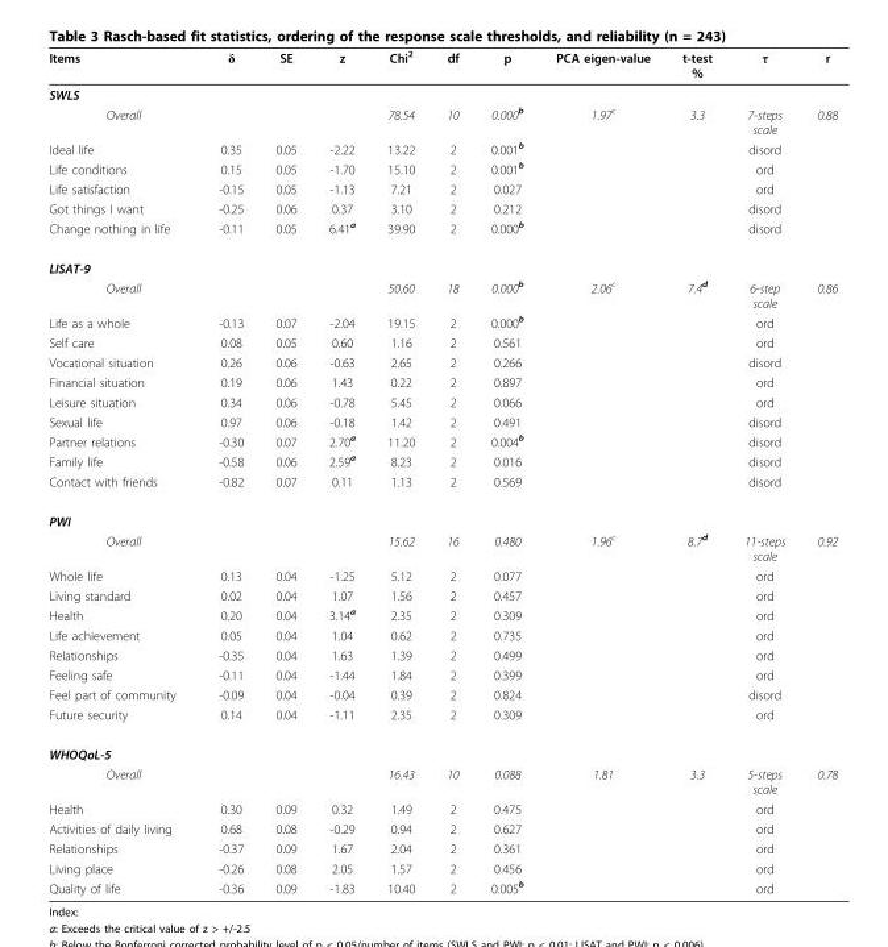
<table><thead><tr><td>Items</td><td>δ</td><td>SE</td><td>z</td><td>Chi<sup>2</sup></td><td>df</td><td>p</td><td>PCA eigen-value</td><td>t-test %</td><td>τ</td><td>r</td></tr></thead><tbody><tr><td colspan="11">SWLS</td></tr><tr><td>Overall</td><td></td><td></td><td></td><td>78.54</td><td>10</td><td>0.000<sup>b</sup></td><td>1.97<sup>c</sup></td><td>3.3</td><td>7-steps scale</td><td>0.88</td></tr><tr><td>Ideal life</td><td>0.35</td><td>0.05</td><td>-2.22</td><td>13.22</td><td>2</td><td>0.001<sup>b</sup></td><td></td><td></td><td>disord</td><td></td></tr><tr><td>Life conditions</td><td>0.15</td><td>0.05</td><td>-1.70</td><td>15.10</td><td>2</td><td>0.001<sup>b</sup></td><td></td><td></td><td>ord</td><td></td></tr><tr><td>Life satisfaction</td><td>-0.15</td><td>0.05</td><td>-1.13</td><td>7.21</td><td>2</td><td>0.027</td><td></td><td></td><td>ord</td><td></td></tr><tr><td>Got things I want</td><td>-0.25</td><td>0.06</td><td>0.37</td><td>3.10</td><td>2</td><td>0.212</td><td></td><td></td><td>disord</td><td></td></tr><tr><td>Change nothing in life</td><td>-0.11</td><td>0.05</td><td>6.41<sup>a</sup></td><td>39.90</td><td>2</td><td>0.000<sup>b</sup></td><td></td><td></td><td>disord</td><td></td></tr><tr><td colspan="11">LISAT-9</td></tr><tr><td>Overall</td><td></td><td></td><td></td><td>50.60</td><td>18</td><td>0.000<sup>b</sup></td><td>2.06<sup>c</sup></td><td>7.4<sup>d</sup></td><td>6-step scale</td><td>0.86</td></tr><tr><td>Life as a whole</td><td>-0.13</td><td>0.07</td><td>-2.04</td><td>19.15</td><td>2</td><td>0.000<sup>b</sup></td><td></td><td></td><td>ord</td><td></td></tr><tr><td>Self care</td><td>0.08</td><td>0.05</td><td>0.60</td><td>1.16</td><td>2</td><td>0.561</td><td></td><td></td><td>ord</td><td></td></tr><tr><td>Vocational situation</td><td>0.26</td><td>0.06</td><td>-0.63</td><td>2.65</td><td>2</td><td>0.266</td><td></td><td></td><td>disord</td><td></td></tr><tr><td>Financial situation</td><td>0.19</td><td>0.06</td><td>1.43</td><td>0.22</td><td>2</td><td>0.897</td><td></td><td></td><td>ord</td><td></td></tr><tr><td>Leisure situation</td><td>0.34</td><td>0.06</td><td>-0.78</td><td>5.45</td><td>2</td><td>0.066</td><td></td><td></td><td>ord</td><td></td></tr><tr><td>Sexual life</td><td>0.97</td><td>0.06</td><td>-0.18</td><td>1.42</td><td>2</td><td>0.491</td><td></td><td></td><td>disord</td><td></td></tr><tr><td>Partner relations</td><td>-0.30</td><td>0.07</td><td>2.70<sup>a</sup></td><td>11.20</td><td>2</td><td>0.004<sup>b</sup></td><td></td><td></td><td>disord</td><td></td></tr><tr><td>Family life</td><td>-0.58</td><td>0.06</td><td>2.59<sup>a</sup></td><td>8.23</td><td>2</td><td>0.016</td><td></td><td></td><td>disord</td><td></td></tr><tr><td>Contact with friends</td><td>-0.82</td><td>0.07</td><td>0.11</td><td>1.13</td><td>2</td><td>0.569</td><td></td><td></td><td>disord</td><td></td></tr><tr><td colspan="11">PWI</td></tr><tr><td>Overall</td><td></td><td></td><td></td><td>15.62</td><td>16</td><td>0.480</td><td>1.96<sup>c</sup></td><td>8.7<sup>d</sup></td><td>11-steps scale</td><td>0.92</td></tr><tr><td>Whole life</td><td>0.13</td><td>0.04</td><td>-1.25</td><td>5.12</td><td>2</td><td>0.077</td><td></td><td></td><td>ord</td><td></td></tr><tr><td>Living standard</td><td>0.02</td><td>0.04</td><td>1.07</td><td>1.56</td><td>2</td><td>0.457</td><td></td><td></td><td>ord</td><td></td></tr><tr><td>Health</td><td>0.20</td><td>0.04</td><td>3.14<sup>a</sup></td><td>2.35</td><td>2</td><td>0.309</td><td></td><td></td><td>ord</td><td></td></tr><tr><td>Life achievement</td><td>0.05</td><td>0.04</td><td>1.04</td><td>0.62</td><td>2</td><td>0.735</td><td></td><td></td><td>ord</td><td></td></tr><tr><td>Relationships</td><td>-0.35</td><td>0.04</td><td>1.63</td><td>1.39</td><td>2</td><td>0.499</td><td></td><td></td><td>ord</td><td></td></tr><tr><td>Feeling safe</td><td>-0.11</td><td>0.04</td><td>-1.44</td><td>1.84</td><td>2</td><td>0.399</td><td></td><td></td><td>ord</td><td></td></tr><tr><td>Feel part of community</td><td>-0.09</td><td>0.04</td><td>-0.04</td><td>0.39</td><td>2</td><td>0.824</td><td></td><td></td><td>disord</td><td></td></tr><tr><td>Future security</td><td>0.14</td><td>0.04</td><td>-1.11</td><td>2.35</td><td>2</td><td>0.309</td><td></td><td></td><td>ord</td><td></td></tr><tr><td colspan="11">WHOQoL-5</td></tr><tr><td>Overall</td><td></td><td></td><td></td><td>16.43</td><td>10</td><td>0.088</td><td>1.81</td><td>3.3</td><td>5-steps scale</td><td>0.78</td></tr><tr><td>Health</td><td>0.30</td><td>0.09</td><td>0.32</td><td>1.49</td><td>2</td><td>0.475</td><td></td><td></td><td>ord</td><td></td></tr><tr><td>Activities of daily living</td><td>0.68</td><td>0.08</td><td>-0.29</td><td>0.94</td><td>2</td><td>0.627</td><td></td><td></td><td>ord</td><td></td></tr><tr><td>Relationships</td><td>-0.37</td><td>0.09</td><td>1.67</td><td>2.04</td><td>2</td><td>0.361</td><td></td><td></td><td>ord</td><td></td></tr><tr><td>Living place</td><td>-0.26</td><td>0.08</td><td>2.05</td><td>1.57</td><td>2</td><td>0.456</td><td></td><td></td><td>ord</td><td></td></tr><tr><td>Quality of life</td><td>-0.36</td><td>0.09</td><td>-1.83</td><td>10.40</td><td>2</td><td>0.005<sup>b</sup></td><td></td><td></td><td>ord</td><td></td></tr></tbody></table>